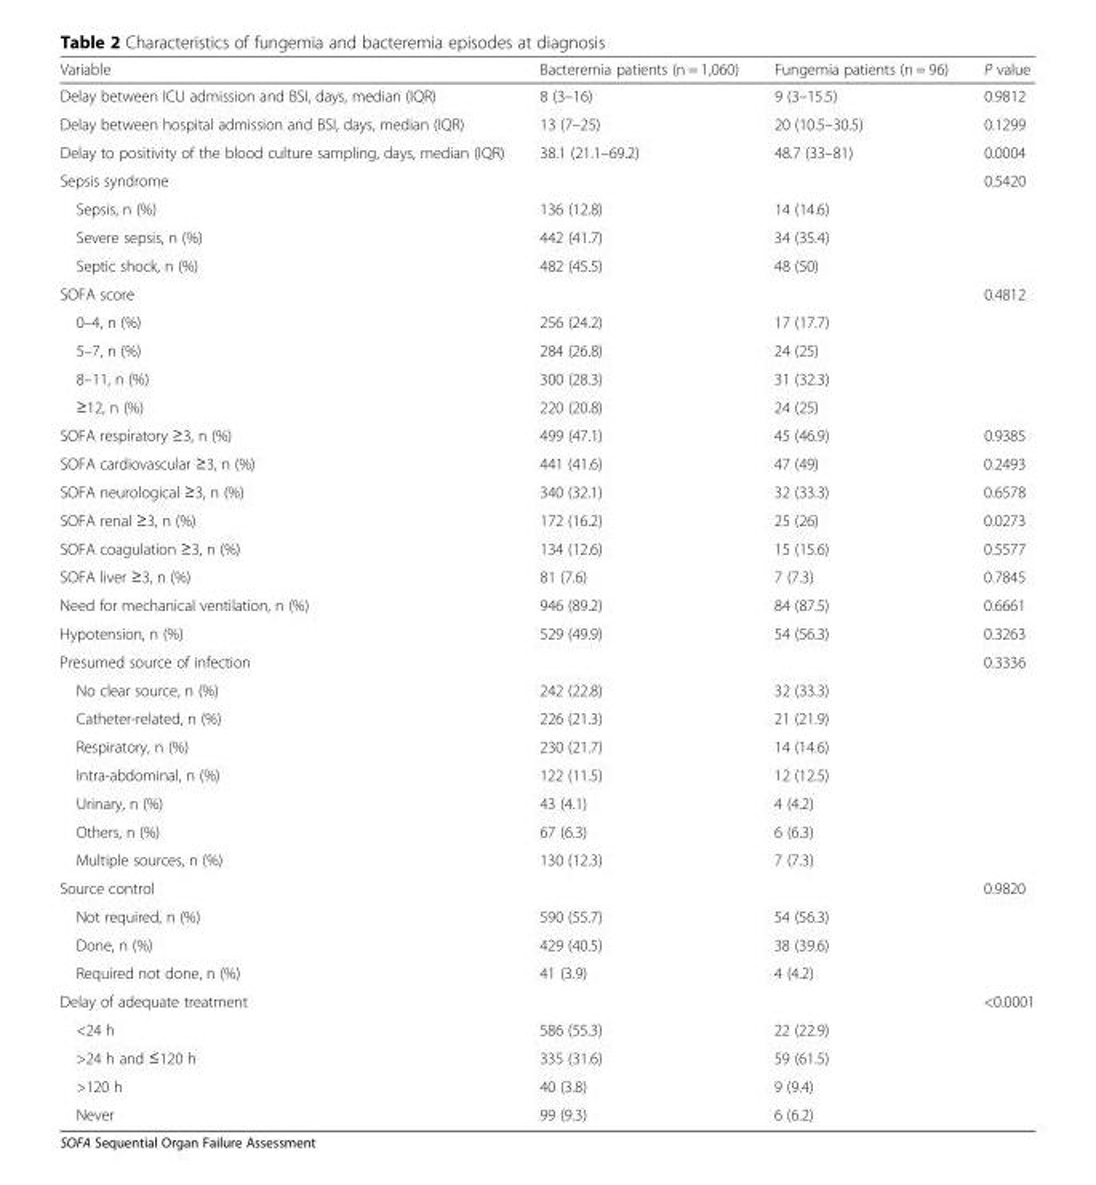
<table><thead><tr><td>Variable</td><td>Bacteremia patients (n = 1,060)</td><td>Fungemia patients (n = 96)</td><td>P value</td></tr></thead><tbody><tr><td>Delay between ICU admission and BSI, days, median (IQR)</td><td>8 (3–16)</td><td>9 (3–15.5)</td><td>0.9812</td></tr><tr><td>Delay between hospital admission and BSI, days, median (IQR)</td><td>13 (7–25)</td><td>20 (10.5–30.5)</td><td>0.1299</td></tr><tr><td>Delay to positivity of the blood culture sampling, days, median (IQR)</td><td>38.1 (21.1–69.2)</td><td>48.7 (33–81)</td><td>0.0004</td></tr><tr><td>Sepsis syndrome</td><td></td><td></td><td>0.5420</td></tr><tr><td>Sepsis, n (%)</td><td>136 (12.8)</td><td>14 (14.6)</td><td></td></tr><tr><td>Severe sepsis, n (%)</td><td>442 (41.7)</td><td>34 (35.4)</td><td></td></tr><tr><td>Septic shock, n (%)</td><td>482 (45.5)</td><td>48 (50)</td><td></td></tr><tr><td>SOFA score</td><td></td><td></td><td>0.4812</td></tr><tr><td>0–4, n (%)</td><td>256 (24.2)</td><td>17 (17.7)</td><td></td></tr><tr><td>5–7, n (%)</td><td>284 (26.8)</td><td>24 (25)</td><td></td></tr><tr><td>8–11, n (%)</td><td>300 (28.3)</td><td>31 (32.3)</td><td></td></tr><tr><td>≥12, n (%)</td><td>220 (20.8)</td><td>24 (25)</td><td></td></tr><tr><td>SOFA respiratory ≥3, n (%)</td><td>499 (47.1)</td><td>45 (46.9)</td><td>0.9385</td></tr><tr><td>SOFA cardiovascular ≥3, n (%)</td><td>441 (41.6)</td><td>47 (49)</td><td>0.2493</td></tr><tr><td>SOFA neurological ≥3, n (%)</td><td>340 (32.1)</td><td>32 (33.3)</td><td>0.6578</td></tr><tr><td>SOFA renal ≥3, n (%)</td><td>172 (16.2)</td><td>25 (26)</td><td>0.0273</td></tr><tr><td>SOFA coagulation ≥3, n (%)</td><td>134 (12.6)</td><td>15 (15.6)</td><td>0.5577</td></tr><tr><td>SOFA liver ≥3, n (%)</td><td>81 (7.6)</td><td>7 (7.3)</td><td>0.7845</td></tr><tr><td>Need for mechanical ventilation, n (%)</td><td>946 (89.2)</td><td>84 (87.5)</td><td>0.6661</td></tr><tr><td>Hypotension, n (%)</td><td>529 (49.9)</td><td>54 (56.3)</td><td>0.3263</td></tr><tr><td>Presumed source of infection</td><td></td><td></td><td>0.3336</td></tr><tr><td>No clear source, n (%)</td><td>242 (22.8)</td><td>32 (33.3)</td><td></td></tr><tr><td>Catheter-related, n (%)</td><td>226 (21.3)</td><td>21 (21.9)</td><td></td></tr><tr><td>Respiratory, n (%)</td><td>230 (21.7)</td><td>14 (14.6)</td><td></td></tr><tr><td>Intra-abdominal, n (%)</td><td>122 (11.5)</td><td>12 (12.5)</td><td></td></tr><tr><td>Urinary, n (%)</td><td>43 (4.1)</td><td>4 (4.2)</td><td></td></tr><tr><td>Others, n (%)</td><td>67 (6.3)</td><td>6 (6.3)</td><td></td></tr><tr><td>Multiple sources, n (%)</td><td>130 (12.3)</td><td>7 (7.3)</td><td></td></tr><tr><td>Source control</td><td></td><td></td><td>0.9820</td></tr><tr><td>Not required, n (%)</td><td>590 (55.7)</td><td>54 (56.3)</td><td></td></tr><tr><td>Done, n (%)</td><td>429 (40.5)</td><td>38 (39.6)</td><td></td></tr><tr><td>Required not done, n (%)</td><td>41 (3.9)</td><td>4 (4.2)</td><td></td></tr><tr><td>Delay of adequate treatment</td><td></td><td></td><td>&lt;0.0001</td></tr><tr><td>&lt;24 h</td><td>586 (55.3)</td><td>22 (22.9)</td><td></td></tr><tr><td>&gt;24 h and ≤120 h</td><td>335 (31.6)</td><td>59 (61.5)</td><td></td></tr><tr><td>&gt;120 h</td><td>40 (3.8)</td><td>9 (9.4)</td><td></td></tr><tr><td>Never</td><td>99 (9.3)</td><td>6 (6.2)</td><td></td></tr></tbody></table>